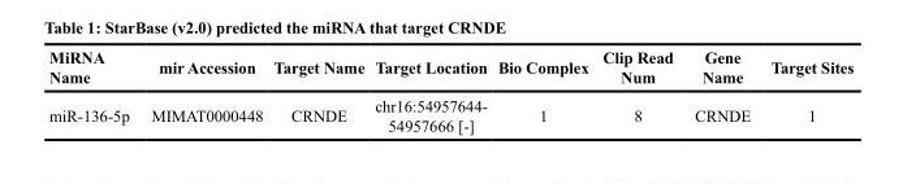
<table><thead><tr><td>MiRNA Name</td><td>mir Accession</td><td>Target Name</td><td>Target Location</td><td>Bio Complex</td><td>Clip Read Num</td><td>Gene Name</td><td>Target Sites</td></tr></thead><tbody><tr><td>miR-136-5p</td><td>MIMAT0000448</td><td>CRNDE</td><td>chr16:54957644- 54957666 [-]</td><td>1</td><td>8</td><td>CRNDE</td><td>1</td></tr></tbody></table>